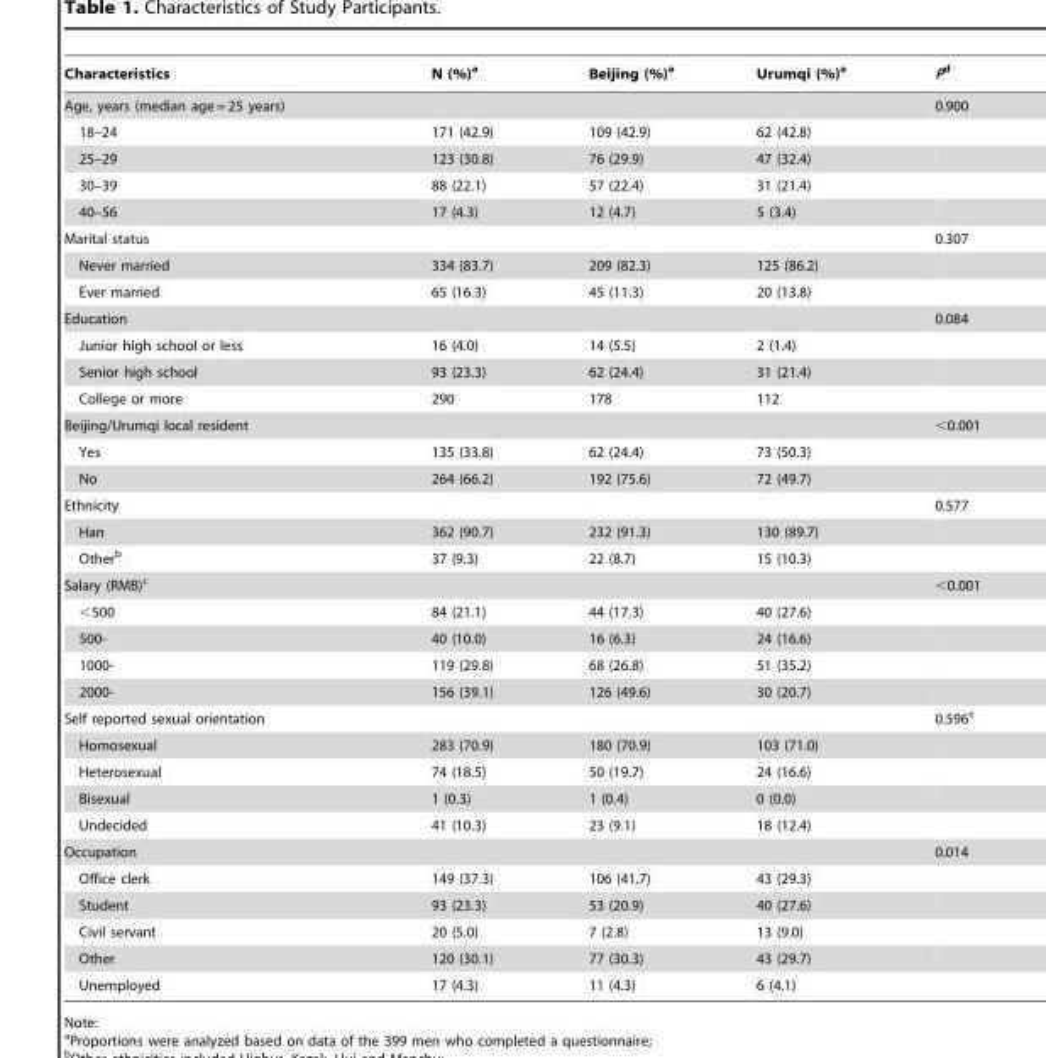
<table><thead><tr><td>Characteristics</td><td>N (%)<sup>a</sup></td><td>Beijing (%)<sup>a</sup></td><td>Urumqi (%)<sup>a</sup></td><td>Pd</td></tr></thead><tbody><tr><td>Age, years (median age = 25 years)</td><td></td><td></td><td></td><td>0.900</td></tr><tr><td>18–24</td><td>171 (42.9)</td><td>109 (42.9)</td><td>62 (42.8)</td><td></td></tr><tr><td>25–29</td><td>123 (30.8)</td><td>76 (29.9)</td><td>47 (32.4)</td><td></td></tr><tr><td>30–39</td><td>88 (22.1)</td><td>57 (22.4)</td><td>31 (21.4)</td><td></td></tr><tr><td>40–56</td><td>17 (4.3)</td><td>12 (4.7)</td><td>5 (3.4)</td><td></td></tr><tr><td>Marital status</td><td></td><td></td><td></td><td>0.307</td></tr><tr><td>Never married</td><td>334 (83.7)</td><td>209 (82.3)</td><td>125 (86.2)</td><td></td></tr><tr><td>Ever married</td><td>65 (16.3)</td><td>45 (11.3)</td><td>20 (13.8)</td><td></td></tr><tr><td>Education</td><td></td><td></td><td></td><td>0.084</td></tr><tr><td>Junior high school or less</td><td>16 (4.0)</td><td>14 (5.5)</td><td>2 (1.4)</td><td></td></tr><tr><td>Senior high school</td><td>93 (23.3)</td><td>62 (24.4)</td><td>31 (21.4)</td><td></td></tr><tr><td>College or more</td><td>290</td><td>178</td><td>112</td><td></td></tr><tr><td>Beijing/Urumqi local resident</td><td></td><td></td><td></td><td>&lt;0.001</td></tr><tr><td>Yes</td><td>135 (33.8)</td><td>62 (24.4)</td><td>73 (50.3)</td><td></td></tr><tr><td>No</td><td>264 (66.2)</td><td>192 (75.6)</td><td>72 (49.7)</td><td></td></tr><tr><td>Ethnicity</td><td></td><td></td><td></td><td>0.577</td></tr><tr><td>Han</td><td>362 (90.7)</td><td>232 (91.3)</td><td>130 (89.7)</td><td></td></tr><tr><td>Other<sup>b</sup></td><td>37 (9.3)</td><td>22 (8.7)</td><td>15 (10.3)</td><td></td></tr><tr><td>Salary (RMB)<sup>c</sup></td><td></td><td></td><td></td><td>&lt;0.001</td></tr><tr><td>&lt;500</td><td>84 (21.1)</td><td>44 (17.3)</td><td>40 (27.6)</td><td></td></tr><tr><td>500-</td><td>40 (10.0)</td><td>16 (6.3)</td><td>24 (16.6)</td><td></td></tr><tr><td>1000-</td><td>119 (29.8)</td><td>68 (26.8)</td><td>51 (35.2)</td><td></td></tr><tr><td>2000-</td><td>156 (39.1)</td><td>126 (49.6)</td><td>30 (20.7)</td><td></td></tr><tr><td>Self reported sexual orientation</td><td></td><td></td><td></td><td>0.596<sup>e</sup></td></tr><tr><td>Homosexual</td><td>283 (70.9)</td><td>180 (70.9)</td><td>103 (71.0)</td><td></td></tr><tr><td>Heterosexual</td><td>74 (18.5)</td><td>50 (19.7)</td><td>24 (16.6)</td><td></td></tr><tr><td>Bisexual</td><td>1 (0.3)</td><td>1 (0.4)</td><td>0 (0.0)</td><td></td></tr><tr><td>Undecided</td><td>41 (10.3)</td><td>23 (9.1)</td><td>18 (12.4)</td><td></td></tr><tr><td>Occupation</td><td></td><td></td><td></td><td>0.014</td></tr><tr><td>Office clerk</td><td>149 (37.3)</td><td>106 (41.7)</td><td>43 (29.3)</td><td></td></tr><tr><td>Student</td><td>93 (23.3)</td><td>53 (20.9)</td><td>40 (27.6)</td><td></td></tr><tr><td>Civil servant</td><td>20 (5.0)</td><td>7 (2.8)</td><td>13 (9.0)</td><td></td></tr><tr><td>Other</td><td>120 (30.1)</td><td>77 (30.3)</td><td>43 (29.7)</td><td></td></tr><tr><td>Unemployed</td><td>17 (4.3)</td><td>11 (4.3)</td><td>6 (4.1)</td><td></td></tr></tbody></table>